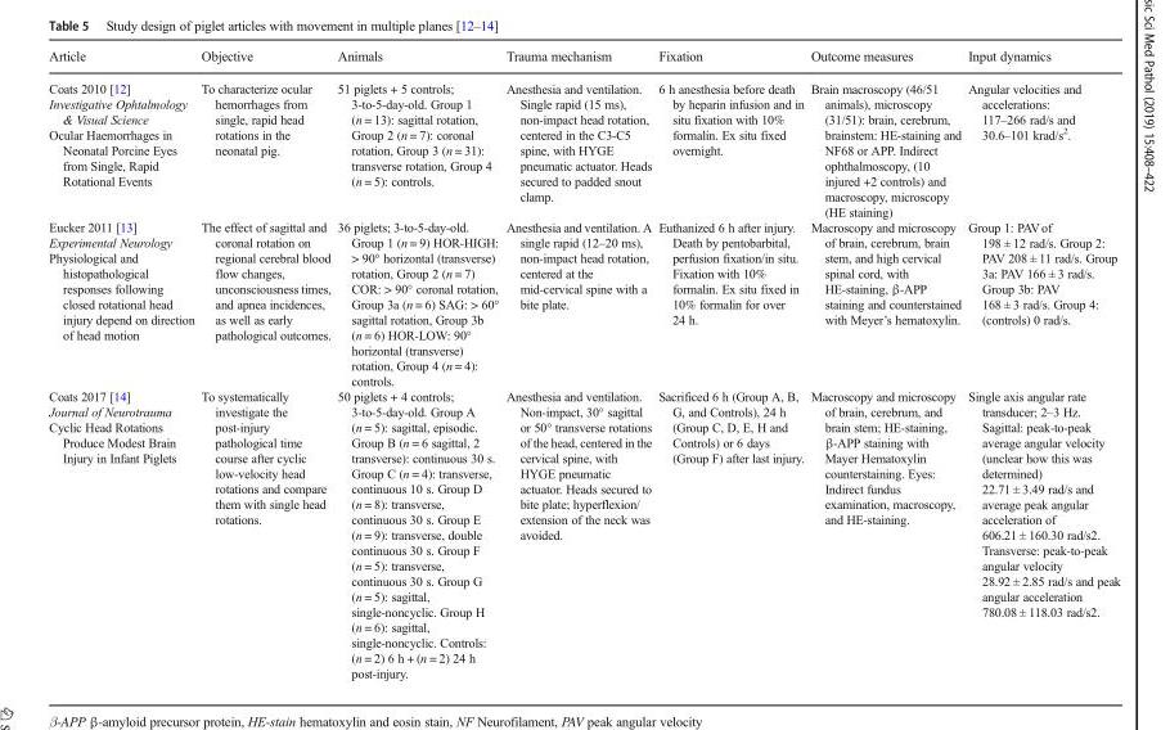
<table><thead><tr><td>Article</td><td>Objective</td><td>Animals</td><td>Trauma mechanism</td><td>Fixation</td><td>Outcome measures</td><td>Input dynamics</td></tr></thead><tbody><tr><td>Coats 2010 [12] Investigative Ophtalmology &amp; Visual Science Ocular Haemorrhages in Neonatal Porcine Eyes from Single, Rapid Rotational Events</td><td>To characterize ocular hemorrhages from single, rapid head rotations in the neonatal pig.</td><td>51 piglets + 5 controls; 3-to-5-day-old. Group 1 (n = 13): sagittal rotation, Group 2 (n = 7): coronal rotation, Group 3 (n = 31): transverse rotation, Group 4 (n = 5): controls.</td><td>Anesthesia and ventilation. Single rapid (15 ms), non-impact head rotation, centered in the C3-C5 spine, with HYGE pneumatic actuator. Heads secured to padded snout clamp.</td><td>6 h anesthesia before death by heparin infusion and in situ fixation with 10% formalin. Ex situ fixed overnight.</td><td>Brain macroscopy (46/51 animals), microscopy (31/51): brain, cerebrum, brainstem: HE-staining and NF68 or APP. Indirect ophthalmoscopy, (10 injured +2 controls) and macroscopy, microscopy (HE staining)</td><td>Angular velocities and accelerations: 117–266 rad/s and 30.6–101 krad/s<sup>2</sup>.</td></tr><tr><td>Eucker 2011 [13] Experimental Neurology Physiological and histopathological responses following closed rotational head injury depend on direction of head motion</td><td>The effect of sagittal and coronal rotation on regional cerebral blood flow changes, unconsciousness times, and apnea incidences, as well as early pathological outcomes.</td><td>36 piglets; 3-to-5-day-old. Group 1 (n = 9) HOR-HIGH: &gt; 90° horizontal (transverse) rotation, Group 2 (n = 7) COR: &gt; 90° coronal rotation, Group 3a (n = 6) SAG: &gt; 60° sagittal rotation, Group 3b (n = 6) HOR-LOW: 90° horizontal (transverse) rotation, Group 4 (n = 4): controls.</td><td>Anesthesia and ventilation. A single rapid (12–20 ms), non-impact head rotation, centered at the mid-cervical spine with a bite plate.</td><td>Euthanized 6 h after injury. Death by pentobarbital, perfusion fixation/in situ. Fixation with 10% formalin. Ex situ fixed in 10% formalin for over 24 h.</td><td>Macroscopy and microscopy of brain, cerebrum, brain stem, and high cervical spinal cord, with HE-staining, β-APP staining and counterstained with Meyer’s hematoxylin.</td><td>Group 1: PAVof 198 ± 12 rad/s. Group 2: PAV 208 ± 11 rad/s. Group 3a: PAV 166 ± 3 rad/s. Group 3b: PAV 168 ± 3 rad/s. Group 4: (controls) 0 rad/s.</td></tr><tr><td>Coats 2017 [14] Journal of Neurotrauma Cyclic Head Rotations Produce Modest Brain Injury in Infant Piglets</td><td>To systematically investigate the post-injury pathological time course after cyclic low-velocity head rotations and compare them with single head rotations.</td><td>50 piglets + 4 controls; 3-to-5-day-old. Group A (n = 5): sagittal, episodic. Group B (n = 6 sagittal, 2 transverse): continuous 30 s. Group C (n = 4): transverse, continuous 10 s. Group D (n = 8): transverse, continuous 30 s. Group E (n = 9): transverse, double continuous 30 s. Group F (n = 5): transverse, continuous 30 s. Group G (n = 5): sagittal, single-noncyclic. Group H (n = 6): sagittal, single-noncyclic. Controls: (n = 2) 6 h + (n = 2) 24 h post-injury.</td><td>Anesthesia and ventilation. Non-impact, 30° sagittal or 50° transverse rotations of the head, centered in the cervical spine, with HYGE pneumatic actuator. Heads secured to bite plate; hyperflexion/ extension of the neck was avoided.</td><td>Sacrificed 6 h (Group A, B, G, and Controls), 24 h (Group C, D, E, H and Controls) or 6 days (Group F) after last injury.</td><td>Macroscopy and microscopy of brain, cerebrum, and brain stem; HE-staining, β-APP staining with Mayer Hematoxylin counterstaining. Eyes: Indirect fundus examination, macroscopy, and HE-staining.</td><td>Single axis angular rate transducer; 2–3 Hz. Sagittal: peak-to-peak average angular velocity (unclear how this was determined) 22.71 ± 3.49 rad/s and average peak angular acceleration of 606.21 ± 160.30 rad/s2. Transverse: peak-to-peak angular velocity 28.92 ± 2.85 rad/s and peak angular acceleration 780.08 ± 118.03 rad/s2.</td></tr></tbody></table>